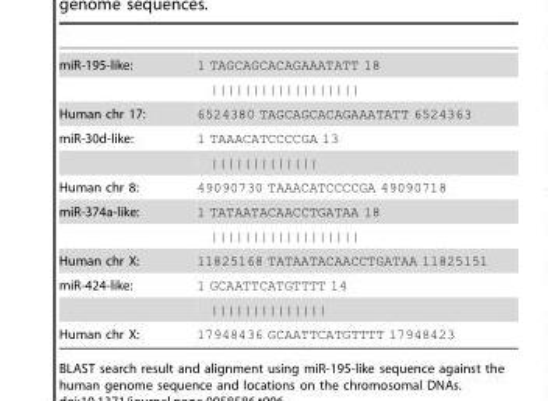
<table><tbody><tr><td rowspan="2">miR-195-like:</td><td>1 TAGCAGCACAGAAATATT 18</td></tr><tr><td>||||||||||||||||||</td></tr><tr><td>Human chr 17:</td><td>6524380 TAGCAGCACAGAAATATT 6524363</td></tr><tr><td rowspan="2">miR-30d-like:</td><td>1 TAAACATCCCCGA 13</td></tr><tr><td>|||||||||||||</td></tr><tr><td>Human chr 8:</td><td>49090730 TAAACATCCCCGA 49090718</td></tr><tr><td rowspan="2">miR-374a-like:</td><td>1 TATAATACAACCTGATAA 18</td></tr><tr><td>||||||||||||||||||</td></tr><tr><td>Human chr X:</td><td>11825168 TATAATACAACCTGATAA 11825151</td></tr><tr><td rowspan="2">miR-424-like:</td><td>1 GCAATTCATGTTTT 14</td></tr><tr><td>||||||||||||||</td></tr><tr><td>Human chr X:</td><td>17948436 GCAATTCATGTTTT 17948423</td></tr></tbody></table>